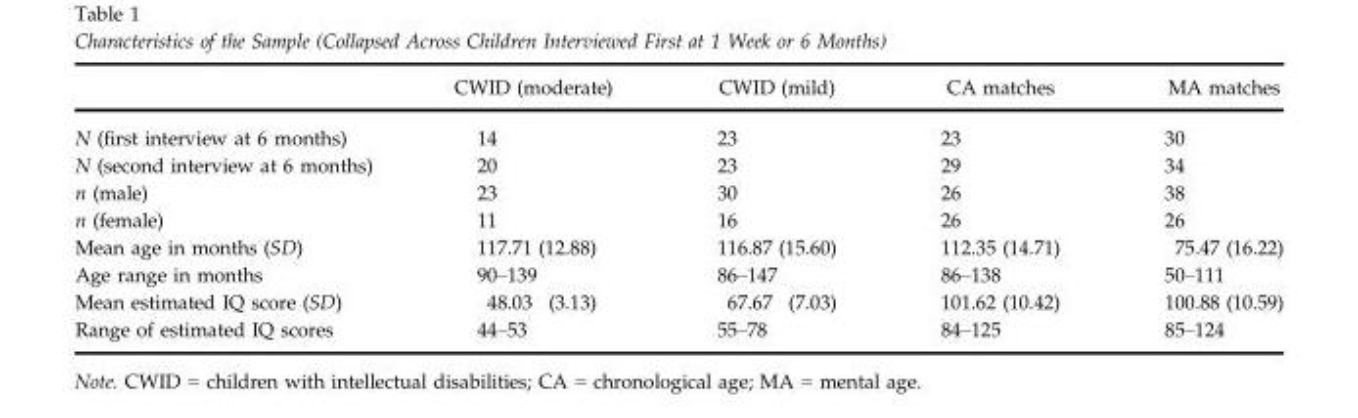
<table><thead><tr><td></td><td>CWID (moderate)</td><td>CWID (mild)</td><td>CA matches</td><td>MA matches</td></tr></thead><tbody><tr><td>N (first interview at 6 months)</td><td>14</td><td>23</td><td>23</td><td>30</td></tr><tr><td>N (second interview at 6 months)</td><td>20</td><td>23</td><td>29</td><td>34</td></tr><tr><td>n (male)</td><td>23</td><td>30</td><td>26</td><td>38</td></tr><tr><td>n (female)</td><td>11</td><td>16</td><td>26</td><td>26</td></tr><tr><td>Mean age in months (SD)</td><td>117.71 (12.88)</td><td>116.87 (15.60)</td><td>112.35 (14.71)</td><td>75.47 (16.22)</td></tr><tr><td>Age range in months</td><td>90–139</td><td>86–147</td><td>86–138</td><td>50–111</td></tr><tr><td>Mean estimated IQ score (SD)</td><td>48.03 (3.13)</td><td>67.67 (7.03)</td><td>101.62 (10.42)</td><td>100.88 (10.59)</td></tr><tr><td>Range of estimated IQ scores</td><td>44–53</td><td>55–78</td><td>84–125</td><td>85–124</td></tr></tbody></table>